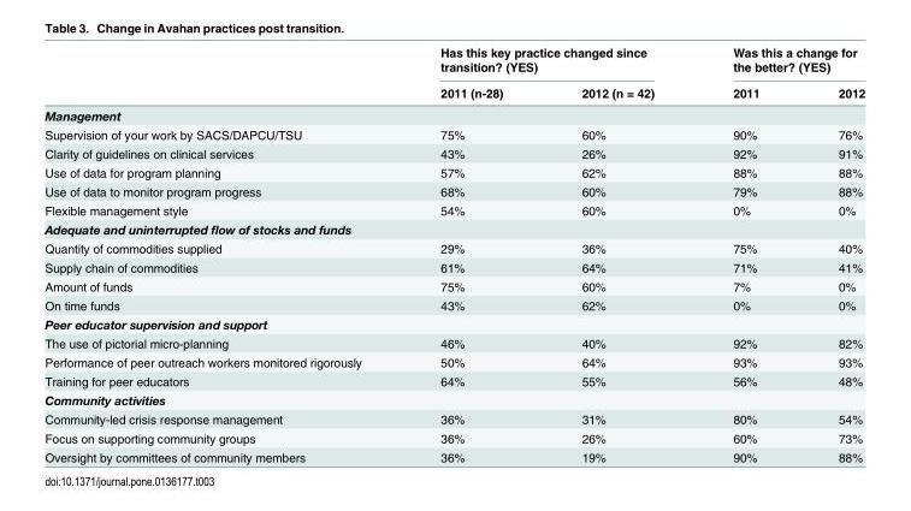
<table><thead><tr><td rowspan="2"></td><td colspan="2">Has this key practice changed since transition? (YES)</td><td colspan="2">Was this a change for the better? (YES)</td></tr><tr><td>2011 (n-28)</td><td>2012 (n = 42)</td><td>2011</td><td>2012</td></tr></thead><tbody><tr><td colspan="5">Management</td></tr><tr><td>Supervision of your work by SACS/DAPCU/TSU</td><td>75%</td><td>60%</td><td>90%</td><td>76%</td></tr><tr><td>Clarity of guidelines on clinical services</td><td>43%</td><td>26%</td><td>92%</td><td>91%</td></tr><tr><td>Use of data for program planning</td><td>57%</td><td>62%</td><td>88%</td><td>88%</td></tr><tr><td>Use of data to monitor program progress</td><td>68%</td><td>60%</td><td>79%</td><td>88%</td></tr><tr><td>Flexible management style</td><td>54%</td><td>60%</td><td>0%</td><td>0%</td></tr><tr><td colspan="5">Adequate and uninterrupted flow of stocks and funds</td></tr><tr><td>Quantity of commodities supplied</td><td>29%</td><td>36%</td><td>75%</td><td>40%</td></tr><tr><td>Supply chain of commodities</td><td>61%</td><td>64%</td><td>71%</td><td>41%</td></tr><tr><td>Amount of funds</td><td>75%</td><td>60%</td><td>7%</td><td>0%</td></tr><tr><td>On time funds</td><td>43%</td><td>62%</td><td>0%</td><td>0%</td></tr><tr><td colspan="5">Peer educator supervision and support</td></tr><tr><td>The use of pictorial micro-planning</td><td>46%</td><td>40%</td><td>92%</td><td>82%</td></tr><tr><td>Performance of peer outreach workers monitored rigorously</td><td>50%</td><td>64%</td><td>93%</td><td>93%</td></tr><tr><td>Training for peer educators</td><td>64%</td><td>55%</td><td>56%</td><td>48%</td></tr><tr><td colspan="5">Community activities</td></tr><tr><td>Community-led crisis response management</td><td>36%</td><td>31%</td><td>80%</td><td>54%</td></tr><tr><td>Focus on supporting community groups</td><td>36%</td><td>26%</td><td>60%</td><td>73%</td></tr><tr><td>Oversight by committees of community members</td><td>36%</td><td>19%</td><td>90%</td><td>88%</td></tr></tbody></table>